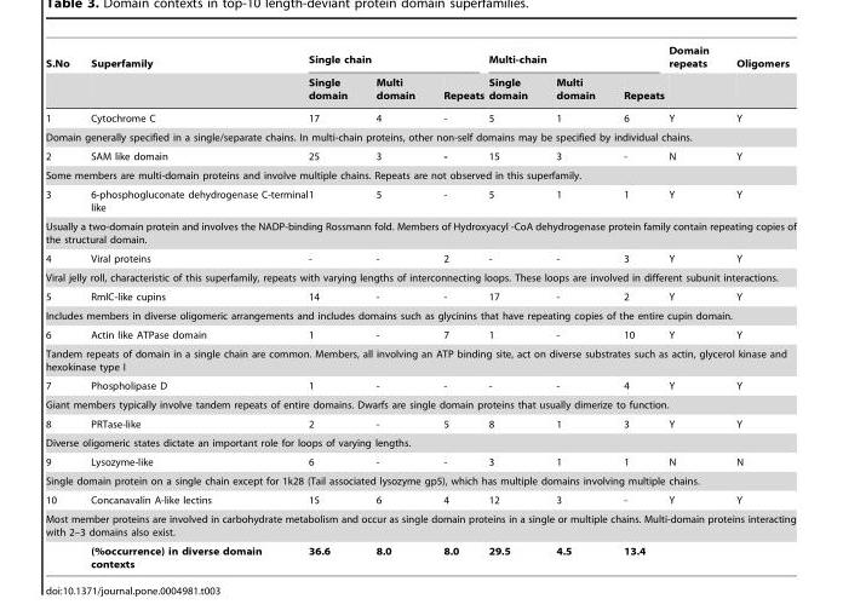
<table><thead><tr><td rowspan="2">S.No</td><td rowspan="2">Superfamily</td><td colspan="3">Single chain</td><td colspan="3">Multi-chain</td><td rowspan="2">Domain repeats</td><td rowspan="2">Oligomers</td></tr><tr><td>Single domain</td><td>Multi domain</td><td>Repeats</td><td>Single domain</td><td>Multi domain</td><td>Repeats</td></tr></thead><tbody><tr><td>1</td><td>Cytochrome C</td><td>17</td><td>4</td><td>-</td><td>5</td><td>1</td><td>6</td><td>Y</td><td>Y</td></tr><tr><td colspan="10">Domain generally specified in a single/separate chains. In multi-chain proteins, other non-self domains may be specified by individual chains.</td></tr><tr><td>2</td><td>SAM like domain</td><td>25</td><td>3</td><td>-</td><td>15</td><td>3</td><td>-</td><td>N</td><td>Y</td></tr><tr><td colspan="10">Some members are multi-domain proteins and involve multiple chains. Repeats are not observed in this superfamily.</td></tr><tr><td>3</td><td>6-phosphogluconate dehydrogenase C-terminal like</td><td>1</td><td>5</td><td>-</td><td>5</td><td>1</td><td>1</td><td>Y</td><td>Y</td></tr><tr><td colspan="10">Usually a two-domain protein and involves the NADP-binding Rossmann fold. Members of Hydroxyacyl -CoA dehydrogenase protein family contain repeating copies of the structural domain.</td></tr><tr><td>4</td><td>Viral proteins</td><td>-</td><td>-</td><td>2</td><td>-</td><td>-</td><td>3</td><td>Y</td><td>Y</td></tr><tr><td colspan="10">Viral jelly roll, characteristic of this superfamily, repeats with varying lengths of interconnecting loops. These loops are involved in different subunit interactions.</td></tr><tr><td>5</td><td>RmlC-like cupins</td><td>14</td><td>-</td><td>-</td><td>17</td><td>-</td><td>2</td><td>Y</td><td>Y</td></tr><tr><td colspan="10">Includes members in diverse oligomeric arrangements and includes domains such as glycinins that have repeating copies of the entire cupin domain.</td></tr><tr><td>6</td><td>Actin like ATPase domain</td><td>1</td><td>-</td><td>7</td><td>1</td><td>-</td><td>10</td><td>Y</td><td>Y</td></tr><tr><td colspan="10">Tandem repeats of domain in a single chain are common. Members, all involving an ATP binding site, act on diverse substrates such as actin, glycerol kinase and hexokinase type I</td></tr><tr><td>7</td><td>Phospholipase D</td><td>1</td><td>-</td><td>-</td><td>-</td><td>-</td><td>4</td><td>Y</td><td>Y</td></tr><tr><td colspan="10">Giant members typically involve tandem repeats of entire domains. Dwarfs are single domain proteins that usually dimerize to function.</td></tr><tr><td>8</td><td>PRTase-like</td><td>2</td><td>-</td><td>5</td><td>8</td><td>1</td><td>3</td><td>Y</td><td>Y</td></tr><tr><td colspan="10">Diverse oligomeric states dictate an important role for loops of varying lengths.</td></tr><tr><td>9</td><td>Lysozyme-like</td><td>6</td><td>-</td><td>-</td><td>3</td><td>1</td><td>1</td><td>N</td><td>N</td></tr><tr><td colspan="10">Single domain protein on a single chain except for 1k28 (Tail associated lysozyme gp5), which has multiple domains involving multiple chains.</td></tr><tr><td>10</td><td>Concanavalin A-like lectins</td><td>15</td><td>6</td><td>4</td><td>12</td><td>3</td><td>-</td><td>Y</td><td>Y</td></tr><tr><td colspan="10">Most member proteins are involved in carbohydrate metabolism and occur as single domain proteins in a single or multiple chains. Multi-domain proteins interacting with 2–3 domains also exist.</td></tr><tr><td></td><td>(%occurrence) in diverse domain contexts</td><td>36.6</td><td>8.0</td><td>8.0</td><td>29.5</td><td>4.5</td><td>13.4</td><td></td><td></td></tr></tbody></table>